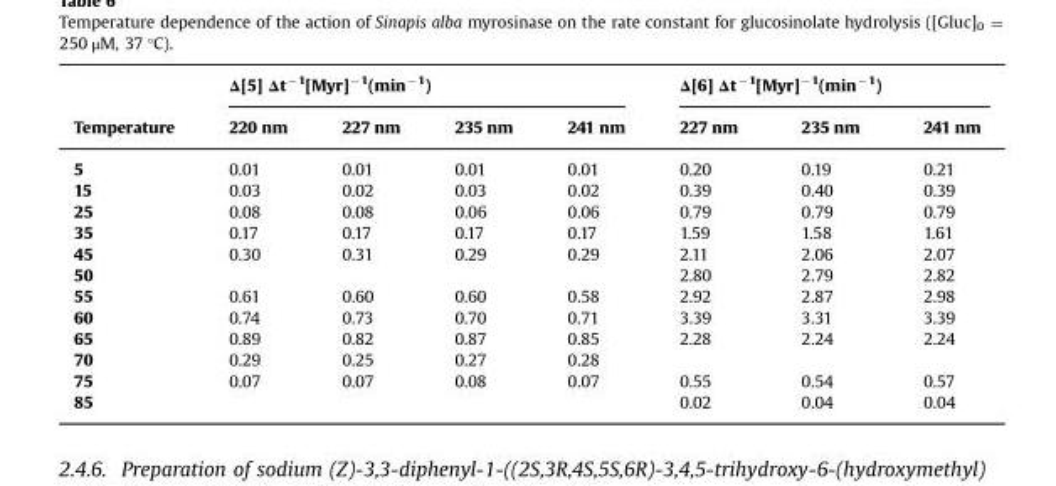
<table><thead><tr><td rowspan="2">Temperature</td><td colspan="4">Δ[5] Δt<sup>−1</sup>[Myr]<sup>−1</sup>(min<sup>−1</sup>)</td><td colspan="3">Δ[6] Δt<sup>−1</sup>[Myr]<sup>−1</sup>(min<sup>−1</sup>)</td></tr><tr><td>220 nm</td><td>227 nm</td><td>235 nm</td><td>241 nm</td><td>227 nm</td><td>235 nm</td><td>241 nm</td></tr></thead><tbody><tr><td>5</td><td>0.01</td><td>0.01</td><td>0.01</td><td>0.01</td><td>0.20</td><td>0.19</td><td>0.21</td></tr><tr><td>15</td><td>0.03</td><td>0.02</td><td>0.03</td><td>0.02</td><td>0.39</td><td>0.40</td><td>0.39</td></tr><tr><td>25</td><td>0.08</td><td>0.08</td><td>0.06</td><td>0.06</td><td>0.79</td><td>0.79</td><td>0.79</td></tr><tr><td>35</td><td>0.17</td><td>0.17</td><td>0.17</td><td>0.17</td><td>1.59</td><td>1.58</td><td>1.61</td></tr><tr><td>45</td><td>0.30</td><td>0.31</td><td>0.29</td><td>0.29</td><td>2.11</td><td>2.06</td><td>2.07</td></tr><tr><td>50</td><td></td><td></td><td></td><td></td><td>2.80</td><td>2.79</td><td>2.82</td></tr><tr><td>55</td><td>0.61</td><td>0.60</td><td>0.60</td><td>0.58</td><td>2.92</td><td>2.87</td><td>2.98</td></tr><tr><td>60</td><td>0.74</td><td>0.73</td><td>0.70</td><td>0.71</td><td>3.39</td><td>3.31</td><td>3.39</td></tr><tr><td>65</td><td>0.89</td><td>0.82</td><td>0.87</td><td>0.85</td><td>2.28</td><td>2.24</td><td>2.24</td></tr><tr><td>70</td><td>0.29</td><td>0.25</td><td>0.27</td><td>0.28</td><td></td><td></td><td></td></tr><tr><td>75</td><td>0.07</td><td>0.07</td><td>0.08</td><td>0.07</td><td>0.55</td><td>0.54</td><td>0.57</td></tr><tr><td>85</td><td></td><td></td><td></td><td></td><td>0.02</td><td>0.04</td><td>0.04</td></tr></tbody></table>